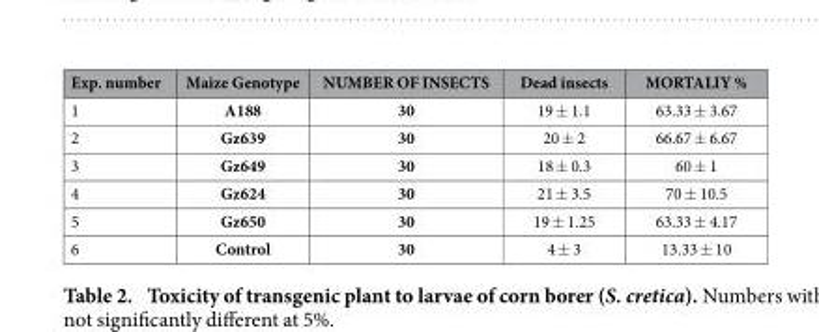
<table><thead><tr><td>Exp. number</td><td>Maize Genotype</td><td>NUMBER OF INSECTS</td><td>Dead insects</td><td>MORTALIY %</td></tr></thead><tbody><tr><td>1</td><td>A188</td><td>30</td><td>19 ± 1.1</td><td>63.33 ± 3.67</td></tr><tr><td>2</td><td>Gz639</td><td>30</td><td>20 ± 2</td><td>66.67 ± 6.67</td></tr><tr><td>3</td><td>Gz649</td><td>30</td><td>18 ± 0.3</td><td>60 ± 1</td></tr><tr><td>4</td><td>Gz624</td><td>30</td><td>21 ± 3.5</td><td>70 ± 10.5</td></tr><tr><td>5</td><td>Gz650</td><td>30</td><td>19 ± 1.25</td><td>63.33 ± 4.17</td></tr><tr><td>6</td><td>Control</td><td>30</td><td>4 ± 3</td><td>13.33 ± 10</td></tr></tbody></table>